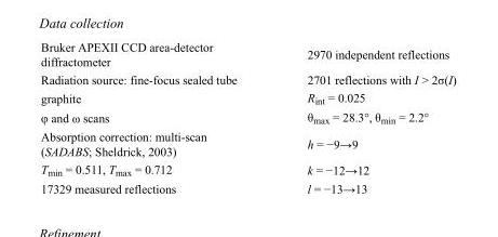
<table><tbody><tr><td>Bruker APEXII CCD area-detector diffractometer</td><td>2970 independent reflections</td></tr><tr><td>Radiation source: fine-focus sealed tube</td><td>2701 reflections with I &gt; 2σ(I)</td></tr><tr><td>graphite</td><td>R<sub>int</sub> = 0.025</td></tr><tr><td>φ and ω scans</td><td>θ<sub>max</sub> = 28.3°, θ<sub>min</sub> = 2.2°</td></tr><tr><td>Absorption correction: multi-scan (SADABS; Sheldrick, 2003)</td><td>h = −9→9</td></tr><tr><td>T<sub>min</sub> = 0.511, T<sub>max</sub> = 0.712</td><td>k = −12→12</td></tr><tr><td>17329 measured reflections</td><td>l = −13→13</td></tr></tbody></table>